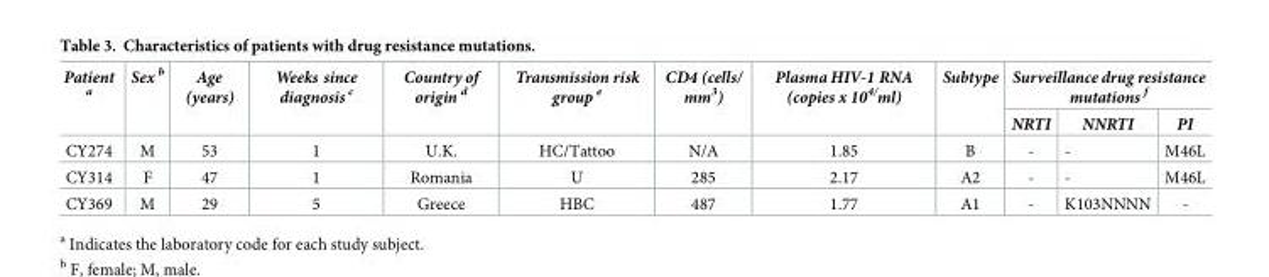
<table><thead><tr><td rowspan="2">Patient <sup>a</sup></td><td rowspan="2">Sex <sup>b</sup></td><td rowspan="2">Age (years)</td><td rowspan="2">Weeks since diagnosis <sup>c</sup></td><td rowspan="2">Country of origin <sup>d</sup></td><td rowspan="2">Transmission risk group <sup>e</sup></td><td rowspan="2">CD4 (cells/ mm<sup>3</sup>)</td><td rowspan="2">Plasma HIV-1 RNA (copies x 10<sup>4/</sup>ml)</td><td rowspan="2">Subtype</td><td colspan="3">Surveillance drug resistance mutations <sup>f</sup></td></tr><tr><td>NRTI</td><td>NNRTI</td><td>PI</td></tr></thead><tbody><tr><td>CY274</td><td>M</td><td>53</td><td>1</td><td>U.K.</td><td>HC/Tattoo</td><td>N/A</td><td>1.85</td><td>B</td><td>-</td><td>-</td><td>M46L</td></tr><tr><td>CY314</td><td>F</td><td>47</td><td>1</td><td>Romania</td><td>U</td><td>285</td><td>2.17</td><td>A2</td><td>-</td><td>-</td><td>M46L</td></tr><tr><td>CY369</td><td>M</td><td>29</td><td>5</td><td>Greece</td><td>HBC</td><td>487</td><td>1.77</td><td>A1</td><td>-</td><td>K103NNNN</td><td>-</td></tr></tbody></table>